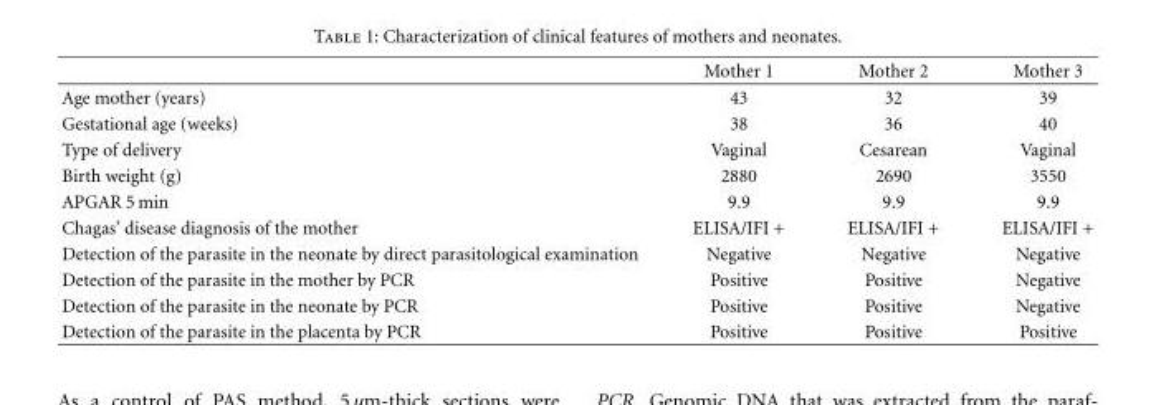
<table><thead><tr><td></td><td>Mother 1</td><td>Mother 2</td><td>Mother 3</td></tr></thead><tbody><tr><td>Age mother (years)</td><td>43</td><td>32</td><td>39</td></tr><tr><td>Gestational age (weeks)</td><td>38</td><td>36</td><td>40</td></tr><tr><td>Type of delivery</td><td>Vaginal</td><td>Cesarean</td><td>Vaginal</td></tr><tr><td>Birth weight (g)</td><td>2880</td><td>2690</td><td>3550</td></tr><tr><td>APGAR 5 min</td><td>9.9</td><td>9.9</td><td>9.9</td></tr><tr><td>Chagas’ disease diagnosis of the mother</td><td>ELISA/IFI +</td><td>ELISA/IFI +</td><td>ELISA/IFI +</td></tr><tr><td>Detection of the parasite in the neonate by direct parasitological examination</td><td>Negative</td><td>Negative</td><td>Negative</td></tr><tr><td>Detection of the parasite in the mother by PCR</td><td>Positive</td><td>Positive</td><td>Negative</td></tr><tr><td>Detection of the parasite in the neonate by PCR</td><td>Positive</td><td>Positive</td><td>Negative</td></tr><tr><td>Detection of the parasite in the placenta by PCR</td><td>Positive</td><td>Positive</td><td>Positive</td></tr></tbody></table>